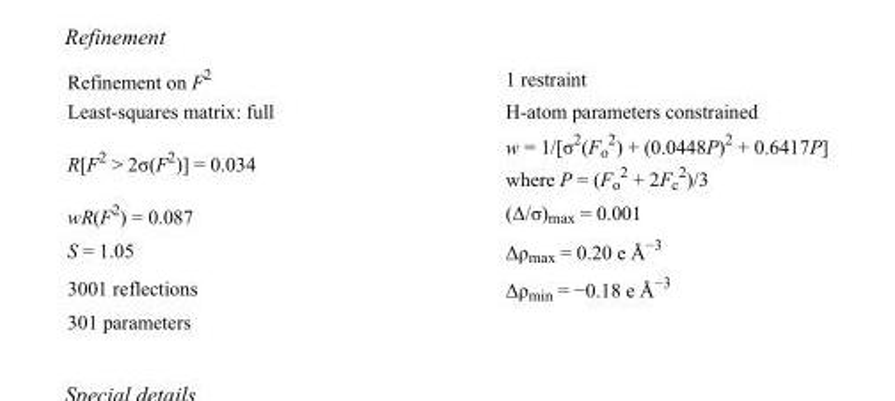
<table><tbody><tr><td>Refinement on F<sup>2</sup></td><td>1 restraint</td></tr><tr><td>Least-squares matrix: full</td><td>H-atom parameters constrained</td></tr><tr><td>R[F<sup>2</sup> &gt; 2σ(F<sup>2</sup>)] = 0.034</td><td>w = 1/[σ<sup>2</sup>(F<sub>o</sub> <sup>2</sup>) + (0.0448P)<sup>2</sup> + 0.6417P] where P = (F<sub>o</sub> <sup>2</sup> + 2F<sub>c</sub> <sup>2</sup>)/3</td></tr><tr><td>wR(F<sup>2</sup>) = 0.087</td><td>(Δ/σ)<sub>max</sub> = 0.001</td></tr><tr><td>S = 1.05</td><td>Δρ<sub>max</sub> = 0.20 e Å<sup>−3</sup></td></tr><tr><td>3001 reflections</td><td>Δρ<sub>min</sub> = −0.18 e Å<sup>−3</sup></td></tr><tr><td>301 parameters</td><td></td></tr></tbody></table>